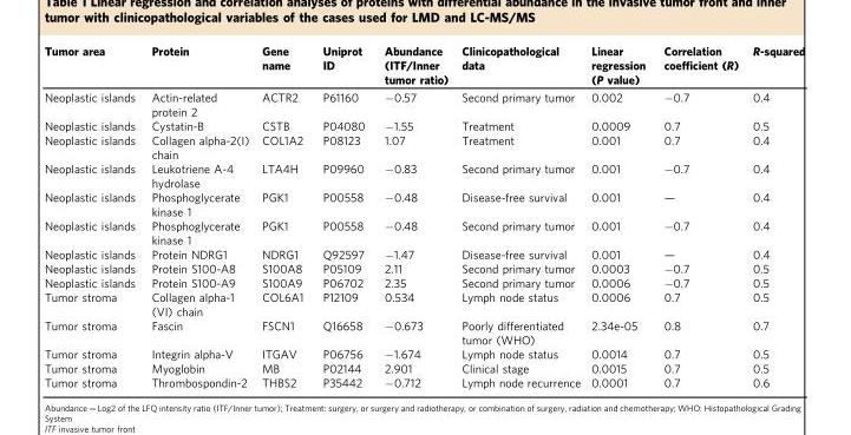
<table><thead><tr><td>Tumor area</td><td>Protein</td><td>Gene name</td><td>Uniprot ID</td><td>Abundance (ITF/Inner tumor ratio)</td><td>Clinicopathological data</td><td>Linear regression (P value)</td><td>Correlation coefficient (R)</td><td>R-squared</td></tr></thead><tbody><tr><td>Neoplastic islands</td><td>Actin-related protein 2</td><td>ACTR2</td><td>P61160</td><td>−0.57</td><td>Second primary tumor</td><td>0.002</td><td>−0.7</td><td>0.4</td></tr><tr><td>Neoplastic islands</td><td>Cystatin-B</td><td>CSTB</td><td>P04080</td><td>−1.55</td><td>Treatment</td><td>0.0009</td><td>0.7</td><td>0.5</td></tr><tr><td>Neoplastic islands</td><td>Collagen alpha-2(I) chain</td><td>COL1A2</td><td>P08123</td><td>1.07</td><td>Treatment</td><td>0.001</td><td>0.7</td><td>0.4</td></tr><tr><td>Neoplastic islands</td><td>Leukotriene A-4 hydrolase</td><td>LTA4H</td><td>P09960</td><td>−0.83</td><td>Second primary tumor</td><td>0.001</td><td>−0.7</td><td>0.4</td></tr><tr><td>Neoplastic islands</td><td>Phosphoglycerate kinase 1</td><td>PGK1</td><td>P00558</td><td>−0.48</td><td>Disease-free survival</td><td>0.001</td><td>—</td><td>0.4</td></tr><tr><td>Neoplastic islands</td><td>Phosphoglycerate kinase 1</td><td>PGK1</td><td>P00558</td><td>−0.48</td><td>Second primary tumor</td><td>0.001</td><td>−0.7</td><td>0.4</td></tr><tr><td>Neoplastic islands</td><td>Protein NDRG1</td><td>NDRG1</td><td>Q92597</td><td>−1.47</td><td>Disease-free survival</td><td>0.001</td><td>—</td><td>0.4</td></tr><tr><td>Neoplastic islands</td><td>Protein S100-A8</td><td>S100A8</td><td>P05109</td><td>2.11</td><td>Second primary tumor</td><td>0.0003</td><td>−0.7</td><td>0.5</td></tr><tr><td>Neoplastic islands</td><td>Protein S100-A9</td><td>S100A9</td><td>P06702</td><td>2.35</td><td>Second primary tumor</td><td>0.0006</td><td>−0.7</td><td>0.5</td></tr><tr><td>Tumor stroma</td><td>Collagen alpha-1 (VI) chain</td><td>COL6A1</td><td>P12109</td><td>0.534</td><td>Lymph node status</td><td>0.0006</td><td>0.7</td><td>0.5</td></tr><tr><td>Tumor stroma</td><td>Fascin</td><td>FSCN1</td><td>Q16658</td><td>−0.673</td><td>Poorly differentiated tumor (WHO)</td><td>2.34e-05</td><td>0.8</td><td>0.7</td></tr><tr><td>Tumor stroma</td><td>Integrin alpha-V</td><td>ITGAV</td><td>P06756</td><td>−1.674</td><td>Lymph node status</td><td>0.0014</td><td>0.7</td><td>0.5</td></tr><tr><td>Tumor stroma</td><td>Myoglobin</td><td>MB</td><td>P02144</td><td>2.901</td><td>Clinical stage</td><td>0.0015</td><td>0.7</td><td>0.5</td></tr><tr><td>Tumor stroma</td><td>Thrombospondin-2</td><td>THBS2</td><td>P35442</td><td>−0.712</td><td>Lymph node recurrence</td><td>0.0001</td><td>0.7</td><td>0.6</td></tr></tbody></table>